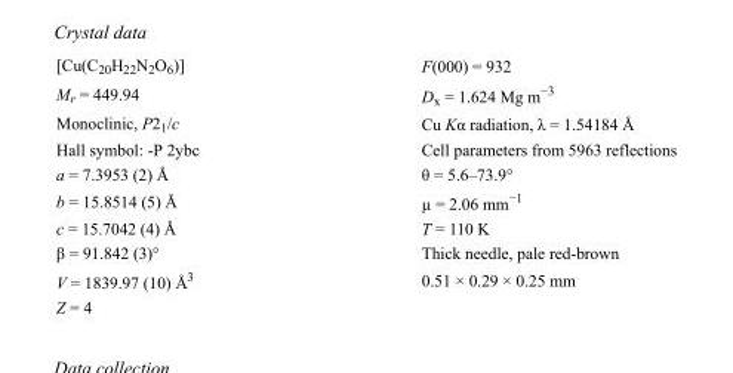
<table><tbody><tr><td>[Cu(C<sub>20</sub>H<sub>22</sub>N<sub>2</sub>O<sub>6</sub>)]</td><td>F(000) = 932</td></tr><tr><td>M<sub>r</sub> = 449.94</td><td>D<sub>x</sub> = 1.624 Mg m<sup>−3</sup></td></tr><tr><td>Monoclinic, P2<sub>1</sub>/c</td><td>Cu Kα radiation, λ = 1.54184 Å</td></tr><tr><td>Hall symbol: -P 2ybc</td><td>Cell parameters from 5963 reflections</td></tr><tr><td>a = 7.3953 (2) Å</td><td>θ = 5.6–73.9°</td></tr><tr><td>b = 15.8514 (5) Å</td><td>µ = 2.06 mm<sup>−1</sup></td></tr><tr><td>c = 15.7042 (4) Å</td><td>T = 110 K</td></tr><tr><td>β = 91.842 (3)°</td><td>Thick needle, pale red-brown</td></tr><tr><td>V = 1839.97 (10) Å<sup>3</sup></td><td>0.51 × 0.29 × 0.25 mm</td></tr><tr><td>Z = 4</td><td></td></tr></tbody></table>